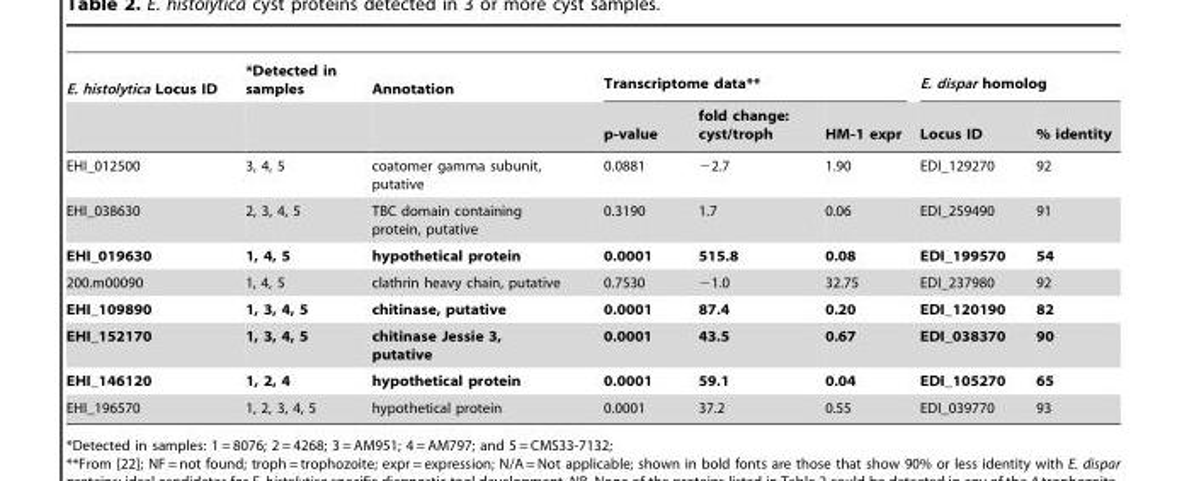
<table><thead><tr><td rowspan="2">E. histolytica Locus ID</td><td rowspan="2">*Detected in samples</td><td rowspan="2">Annotation</td><td colspan="3">Transcriptome data**</td><td colspan="2">E. dispar homolog</td></tr><tr><td>p-value</td><td>fold change: cyst/troph</td><td>HM-1 expr</td><td>Locus ID</td><td>% identity</td></tr></thead><tbody><tr><td>EHI_012500</td><td>3, 4, 5</td><td>coatomer gamma subunit, putative</td><td>0.0881</td><td>−2.7</td><td>1.90</td><td>EDI_129270</td><td>92</td></tr><tr><td>EHI_038630</td><td>2, 3, 4, 5</td><td>TBC domain containing protein, putative</td><td>0.3190</td><td>1.7</td><td>0.06</td><td>EDI_259490</td><td>91</td></tr><tr><td>EHI_019630</td><td>1, 4, 5</td><td>hypothetical protein</td><td>0.0001</td><td>515.8</td><td>0.08</td><td>EDI_199570</td><td>54</td></tr><tr><td>200.m00090</td><td>1, 4, 5</td><td>clathrin heavy chain, putative</td><td>0.7530</td><td>−1.0</td><td>32.75</td><td>EDI_237980</td><td>92</td></tr><tr><td>EHI_109890</td><td>1, 3, 4, 5</td><td>chitinase, putative</td><td>0.0001</td><td>87.4</td><td>0.20</td><td>EDI_120190</td><td>82</td></tr><tr><td>EHI_152170</td><td>1, 3, 4, 5</td><td>chitinase Jessie 3, putative</td><td>0.0001</td><td>43.5</td><td>0.67</td><td>EDI_038370</td><td>90</td></tr><tr><td>EHI_146120</td><td>1, 2, 4</td><td>hypothetical protein</td><td>0.0001</td><td>59.1</td><td>0.04</td><td>EDI_105270</td><td>65</td></tr><tr><td>EHI_196570</td><td>1, 2, 3, 4, 5</td><td>hypothetical protein</td><td>0.0001</td><td>37.2</td><td>0.55</td><td>EDI_039770</td><td>93</td></tr></tbody></table>